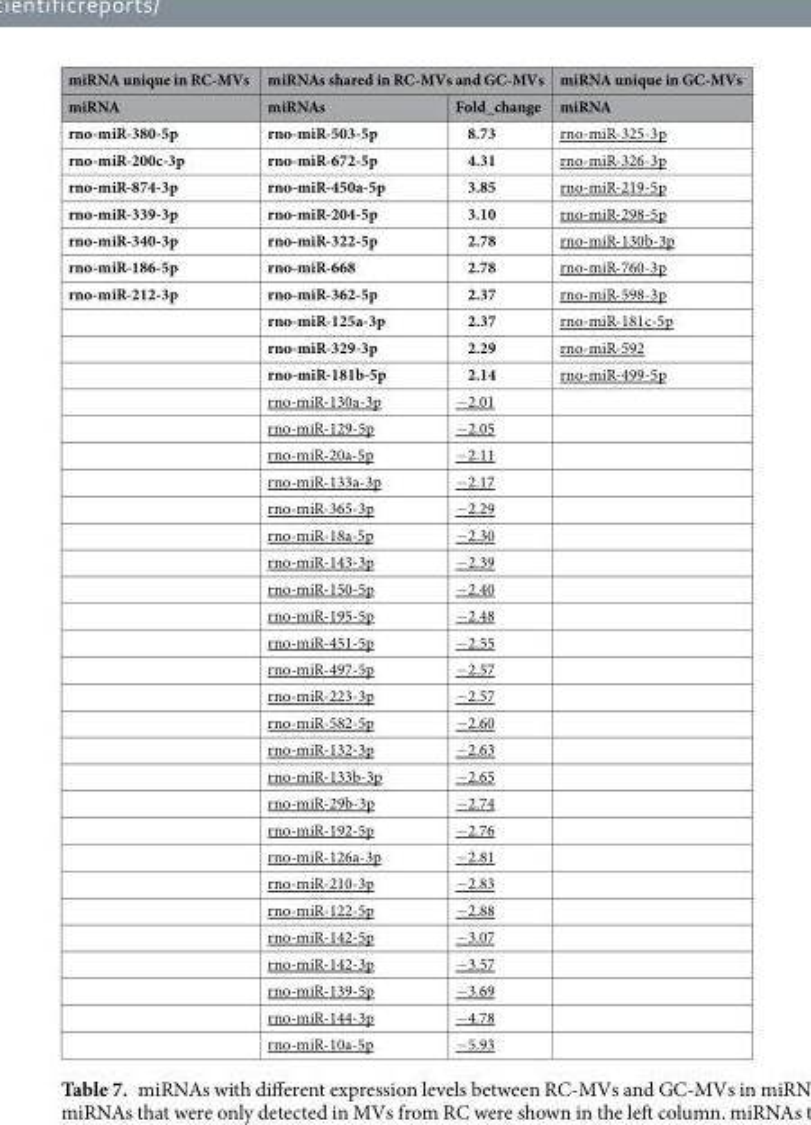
<table><thead><tr><td rowspan="2">miRNA unique in RC-MVs miRNA</td><td colspan="2">miRNAs shared in RC-MVs and GC-MVs</td><td rowspan="2">miRNA unique in GC-MVs miRNA</td></tr><tr><td>miRNAs</td><td>Fold_change</td></tr></thead><tbody><tr><td>rno-miR-380-5p</td><td>rno-miR-503-5p</td><td>8.73</td><td>rno-miR-325-3p</td></tr><tr><td>rno-miR-200c-3p</td><td>rno-miR-672-5p</td><td>4.31</td><td>rno-miR-326-3p</td></tr><tr><td>rno-miR-874-3p</td><td>rno-miR-450a-5p</td><td>3.85</td><td>rno-miR-219-5p</td></tr><tr><td>rno-miR-339-3p</td><td>rno-miR-204-5p</td><td>3.10</td><td>rno-miR-298-5p</td></tr><tr><td>rno-miR-340-3p</td><td>rno-miR-322-5p</td><td>2.78</td><td>rno-miR-130b-3p</td></tr><tr><td>rno-miR-186-5p</td><td>rno-miR-668</td><td>2.78</td><td>rno-miR-760-3p</td></tr><tr><td rowspan="29">rno-miR-212-3p</td><td>rno-miR-362-5p</td><td>2.37</td><td>rno-miR-598-3p</td></tr><tr><td>rno-miR-125a-3p</td><td>2.37</td><td>rno-miR-181c-5p</td></tr><tr><td>rno-miR-329-3p</td><td>2.29</td><td>rno-miR-592</td></tr><tr><td>rno-miR-181b-5p</td><td>2.14</td><td>rno-miR-499-5p</td></tr><tr><td>rno-miR-130a-3p</td><td>−2.01</td><td></td></tr><tr><td>rno-miR-129-5p</td><td>−2.05</td><td></td></tr><tr><td>rno-miR-20a-5p</td><td>−2.11</td><td></td></tr><tr><td>rno-miR-133a-3p</td><td>−2.17</td><td></td></tr><tr><td>rno-miR-365-3p</td><td>−2.29</td><td></td></tr><tr><td>rno-miR-18a-5p</td><td>−2.30</td><td></td></tr><tr><td>rno-miR-143-3p</td><td>−2.39</td><td></td></tr><tr><td>rno-miR-150-5p</td><td>−2.40</td><td></td></tr><tr><td>rno-miR-195-5p</td><td>−2.48</td><td></td></tr><tr><td>rno-miR-451-5p</td><td>−2.55</td><td></td></tr><tr><td>rno-miR-497-5p</td><td>−2.57</td><td></td></tr><tr><td>rno-miR-223-3p</td><td>−2.57</td><td></td></tr><tr><td>rno-miR-582-5p</td><td>−2.60</td><td></td></tr><tr><td>rno-miR-132-3p</td><td>−2.63</td><td></td></tr><tr><td>rno-miR-133b-3p</td><td>−2.65</td><td></td></tr><tr><td>rno-miR-29b-3p</td><td>−2.74</td><td></td></tr><tr><td>rno-miR-192-5p</td><td>−2.76</td><td></td></tr><tr><td>rno-miR-126a-3p</td><td>−2.81</td><td></td></tr><tr><td>rno-miR-210-3p</td><td>−2.83</td><td></td></tr><tr><td>rno-miR-122-5p</td><td>−2.88</td><td></td></tr><tr><td>rno-miR-142-5p</td><td>−3.07</td><td></td></tr><tr><td>rno-miR-142-3p</td><td>−3.57</td><td></td></tr><tr><td>rno-miR-139-5p</td><td>−3.69</td><td></td></tr><tr><td>rno-miR-144-3p</td><td>−4.78</td><td></td></tr><tr><td>rno-miR-10a-5p</td><td>−5.93</td><td></td></tr></tbody></table>